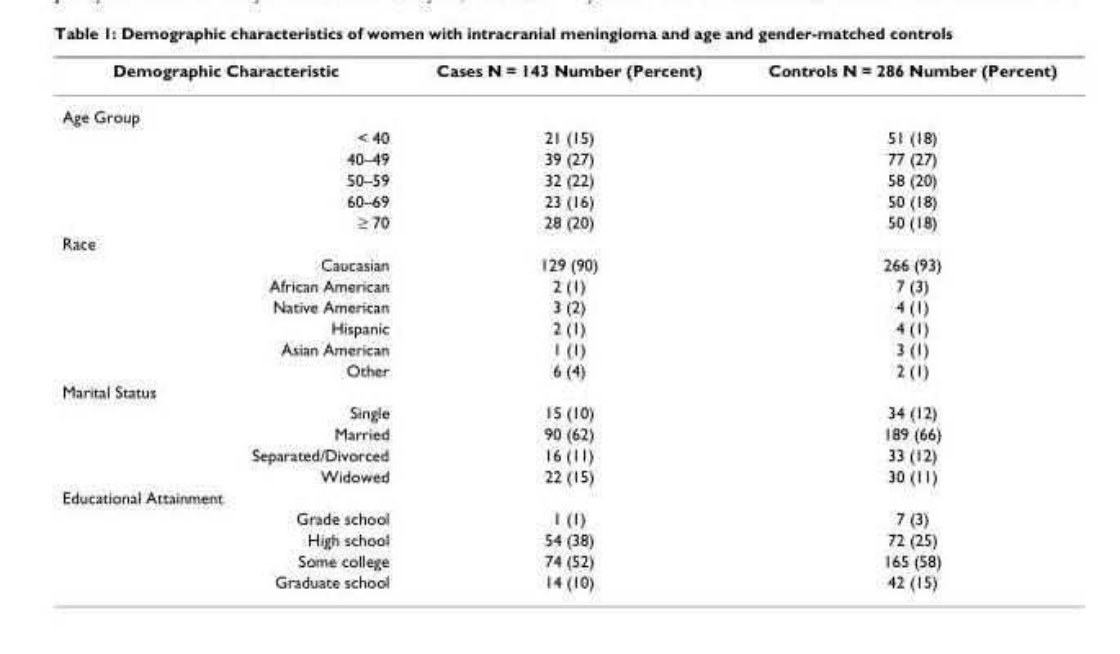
<table><thead><tr><td>Demographic Characteristic</td><td>Cases N = 143 Number (Percent)</td><td>Controls N = 286 Number (Percent)</td></tr></thead><tbody><tr><td colspan="3">Age Group</td></tr><tr><td>&lt; 40</td><td>21 (15)</td><td>51 (18)</td></tr><tr><td>40–49</td><td>39 (27)</td><td>77 (27)</td></tr><tr><td>50–59</td><td>32 (22)</td><td>58 (20)</td></tr><tr><td>60–69</td><td>23 (16)</td><td>50 (18)</td></tr><tr><td>≥ 70</td><td>28 (20)</td><td>50 (18)</td></tr><tr><td colspan="3">Race</td></tr><tr><td>Caucasian</td><td>129 (90)</td><td>266 (93)</td></tr><tr><td>African American</td><td>2 (1)</td><td>7 (3)</td></tr><tr><td>Native American</td><td>3 (2)</td><td>4 (1)</td></tr><tr><td>Hispanic</td><td>2 (1)</td><td>4 (1)</td></tr><tr><td>Asian American</td><td>1 (1)</td><td>3 (1)</td></tr><tr><td>Other</td><td>6 (4)</td><td>2 (1)</td></tr><tr><td colspan="3">Marital Status</td></tr><tr><td>Single</td><td>15 (10)</td><td>34 (12)</td></tr><tr><td>Married</td><td>90 (62)</td><td>189 (66)</td></tr><tr><td>Separated/Divorced</td><td>16 (11)</td><td>33 (12)</td></tr><tr><td>Widowed</td><td>22 (15)</td><td>30 (11)</td></tr><tr><td colspan="3">Educational Attainment</td></tr><tr><td>Grade school</td><td>1 (1)</td><td>7 (3)</td></tr><tr><td>High school</td><td>54 (38)</td><td>72 (25)</td></tr><tr><td>Some college</td><td>74 (52)</td><td>165 (58)</td></tr><tr><td>Graduate school</td><td>14 (10)</td><td>42 (15)</td></tr></tbody></table>